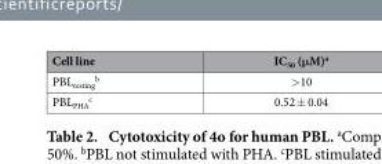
<table><thead><tr><td>Cell line</td><td>IC<sub>50</sub> (μM)<sup>a</sup></td></tr></thead><tbody><tr><td>PBL<sub>resting</sub> <sup>b</sup></td><td>&gt; 10</td></tr><tr><td>PBL<sub>PHA</sub> <sup>c</sup></td><td>0.52 ± 0.04</td></tr></tbody></table>